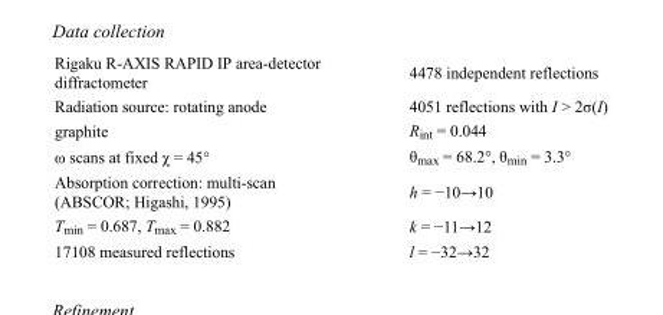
<table><tbody><tr><td>Rigaku R-AXIS RAPID IP area-detector diffractometer</td><td>4478 independent reflections</td></tr><tr><td>Radiation source: rotating anode</td><td>4051 reflections with I &gt; 2σ(I)</td></tr><tr><td>graphite</td><td>R<sub>int</sub> = 0.044</td></tr><tr><td>ω scans at fixed χ = 45°</td><td>θ<sub>max</sub> = 68.2°, θ<sub>min</sub> = 3.3°</td></tr><tr><td>Absorption correction: multi-scan (ABSCOR; Higashi, 1995)</td><td>h = −10→10</td></tr><tr><td>T<sub>min</sub> = 0.687, T<sub>max</sub> = 0.882</td><td>k = −11→12</td></tr><tr><td>17108 measured reflections</td><td>l = −32→32</td></tr></tbody></table>